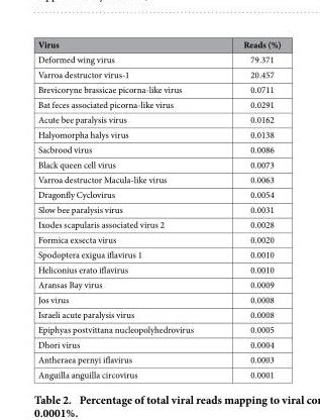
<table><thead><tr><td>Virus</td><td>Reads (%)</td></tr></thead><tbody><tr><td>Deformed wing virus</td><td>79.371</td></tr><tr><td>Varroa destructor virus-1</td><td>20.457</td></tr><tr><td>Brevicoryne brassicae picorna-like virus</td><td>0.0711</td></tr><tr><td>Bat feces associated picorna-like virus</td><td>0.0291</td></tr><tr><td>Acute bee paralysis virus</td><td>0.0162</td></tr><tr><td>Halyomorpha halys virus</td><td>0.0138</td></tr><tr><td>Sacbrood virus</td><td>0.0086</td></tr><tr><td>Black queen cell virus</td><td>0.0073</td></tr><tr><td>Varroa destructor Macula-like virus</td><td>0.0063</td></tr><tr><td>Dragonfly Cyclovirus</td><td>0.0054</td></tr><tr><td>Slow bee paralysis virus</td><td>0.0031</td></tr><tr><td>Ixodes scapularis associated virus 2</td><td>0.0028</td></tr><tr><td>Formica exsecta virus</td><td>0.0020</td></tr><tr><td>Spodoptera exigua iflavirus 1</td><td>0.0010</td></tr><tr><td>Heliconius erato iflavirus</td><td>0.0010</td></tr><tr><td>Aransas Bay virus</td><td>0.0009</td></tr><tr><td>Jos virus</td><td>0.0008</td></tr><tr><td>Israeli acute paralysis virus</td><td>0.0008</td></tr><tr><td>Epiphyas postvittana nucleopolyhedrovirus</td><td>0.0005</td></tr><tr><td>Dhori virus</td><td>0.0004</td></tr><tr><td>Antheraea pernyi iflavirus</td><td>0.0003</td></tr><tr><td>Anguilla anguilla circovirus</td><td>0.0001</td></tr></tbody></table>